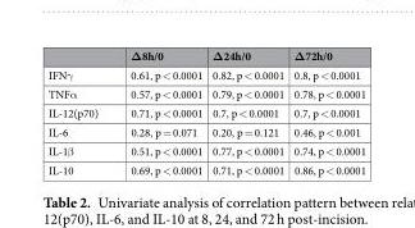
<table><thead><tr><td></td><td>Δ8h/0</td><td>Δ24h/0</td><td>Δ72h/0</td></tr></thead><tbody><tr><td>IFNγ</td><td>0.61, p &lt; 0.0001</td><td>0.82, p &lt; 0.0001</td><td>0.8, p &lt; 0.0001</td></tr><tr><td>TNFα</td><td>0.57, p &lt; 0.0001</td><td>0.79, p &lt; 0.0001</td><td>0.78, p &lt; 0.0001</td></tr><tr><td>IL-12(p70)</td><td>0.71, p &lt; 0.0001</td><td>0.7, p &lt; 0.0001</td><td>0.7, p &lt; 0.0001</td></tr><tr><td>IL-6</td><td>0.28, p = 0.071</td><td>0.20, p = 0.121</td><td>0.46, p &lt; 0.001</td></tr><tr><td>IL-1β</td><td>0.51, p &lt; 0.0001</td><td>0.77, p &lt; 0.0001</td><td>0.74, p &lt; 0.0001</td></tr><tr><td>IL-10</td><td>0.69, p &lt; 0.0001</td><td>0.71, p &lt; 0.0001</td><td>0.86, p &lt; 0.0001</td></tr></tbody></table>